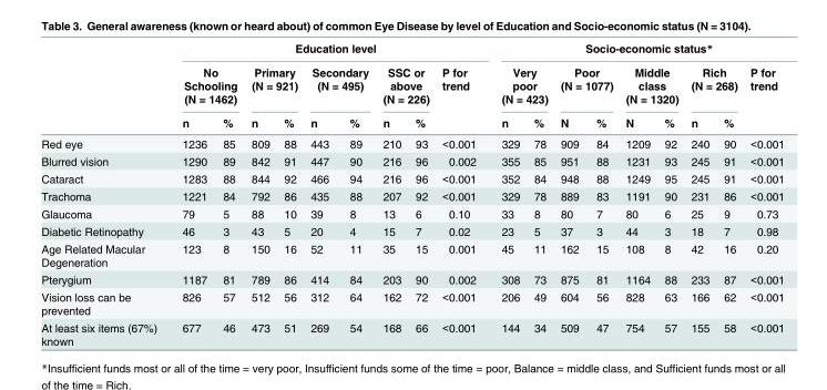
<table><thead><tr><td rowspan="3"></td><td colspan="9">Education level</td><td colspan="9">Socio-economic status*</td></tr><tr><td colspan="2">No Schooling (N = 1462)</td><td colspan="2">Primary (N = 921)</td><td colspan="2">Secondary (N = 495)</td><td colspan="2">SSC or above (N = 226)</td><td rowspan="2">P for trend</td><td colspan="2">Very poor (N = 423)</td><td colspan="2">Poor (N = 1077)</td><td colspan="2">Middle class (N = 1320)</td><td colspan="2">Rich (N = 268)</td><td rowspan="2">P for trend</td></tr><tr><td>n</td><td>%</td><td>n</td><td>%</td><td>n</td><td>%</td><td>n</td><td>%</td><td>n</td><td>%</td><td>N</td><td>%</td><td>N</td><td>%</td><td>n</td><td>%</td></tr></thead><tbody><tr><td>Red eye</td><td>1236</td><td>85</td><td>809</td><td>88</td><td>443</td><td>89</td><td>210</td><td>93</td><td>&lt;0.001</td><td>329</td><td>78</td><td>909</td><td>84</td><td>1209</td><td>92</td><td>240</td><td>90</td><td>&lt;0.001</td></tr><tr><td>Blurred vision</td><td>1290</td><td>89</td><td>842</td><td>91</td><td>447</td><td>90</td><td>216</td><td>96</td><td>0.002</td><td>355</td><td>85</td><td>951</td><td>88</td><td>1231</td><td>93</td><td>245</td><td>91</td><td>&lt;0.001</td></tr><tr><td>Cataract</td><td>1283</td><td>88</td><td>844</td><td>92</td><td>466</td><td>94</td><td>216</td><td>96</td><td>&lt;0.001</td><td>352</td><td>84</td><td>948</td><td>88</td><td>1249</td><td>95</td><td>245</td><td>91</td><td>&lt;0.001</td></tr><tr><td>Trachoma</td><td>1221</td><td>84</td><td>792</td><td>86</td><td>435</td><td>88</td><td>207</td><td>92</td><td>&lt;0.001</td><td>329</td><td>78</td><td>889</td><td>83</td><td>1191</td><td>90</td><td>231</td><td>86</td><td>&lt;0.001</td></tr><tr><td>Glaucoma</td><td>79</td><td>5</td><td>88</td><td>10</td><td>39</td><td>8</td><td>13</td><td>6</td><td>0.10</td><td>33</td><td>8</td><td>80</td><td>7</td><td>80</td><td>6</td><td>25</td><td>9</td><td>0.73</td></tr><tr><td>Diabetic Retinopathy</td><td>46</td><td>3</td><td>43</td><td>5</td><td>20</td><td>4</td><td>15</td><td>7</td><td>0.02</td><td>23</td><td>5</td><td>37</td><td>3</td><td>44</td><td>3</td><td>18</td><td>7</td><td>0.98</td></tr><tr><td>Age Related Macular Degeneration</td><td>123</td><td>8</td><td>150</td><td>16</td><td>52</td><td>11</td><td>35</td><td>15</td><td>0.001</td><td>45</td><td>11</td><td>162</td><td>15</td><td>108</td><td>8</td><td>42</td><td>16</td><td>0.20</td></tr><tr><td>Pterygium</td><td>1187</td><td>81</td><td>789</td><td>86</td><td>414</td><td>84</td><td>203</td><td>90</td><td>0.002</td><td>308</td><td>73</td><td>875</td><td>81</td><td>1164</td><td>88</td><td>233</td><td>87</td><td>&lt;0.001</td></tr><tr><td>Vision loss can be prevented</td><td>826</td><td>57</td><td>512</td><td>56</td><td>312</td><td>64</td><td>162</td><td>72</td><td>&lt;0.001</td><td>206</td><td>49</td><td>604</td><td>56</td><td>828</td><td>63</td><td>166</td><td>62</td><td>&lt;0.001</td></tr><tr><td>At least six items (67%) known</td><td>677</td><td>46</td><td>473</td><td>51</td><td>269</td><td>54</td><td>168</td><td>66</td><td>&lt;0.001</td><td>144</td><td>34</td><td>509</td><td>47</td><td>754</td><td>57</td><td>155</td><td>58</td><td>&lt;0.001</td></tr></tbody></table>